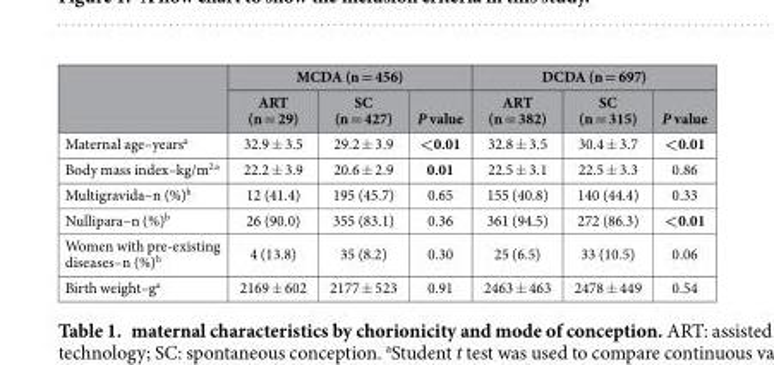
<table><thead><tr><td rowspan="2"></td><td colspan="3">MCDA (n = 456)</td><td colspan="3">DCDA (n = 697)</td></tr><tr><td>ART (n = 29)</td><td>SC (n = 427)</td><td>P value</td><td>ART (n = 382)</td><td>SC (n = 315)</td><td>P value</td></tr></thead><tbody><tr><td>Maternal age–years<sup>a</sup></td><td>32.9 ± 3.5</td><td>29.2 ± 3.9</td><td>&lt;0.01</td><td>32.8 ± 3.5</td><td>30.4 ± 3.7</td><td>&lt;0.01</td></tr><tr><td>Body mass index–kg/m<sup>2</sup> a</td><td>22.2 ± 3.9</td><td>20.6 ± 2.9</td><td>0.01</td><td>22.5 ± 3.1</td><td>22.5 ± 3.3</td><td>0.86</td></tr><tr><td>Multigravida–n (%)<sup>b</sup></td><td>12 (41.4)</td><td>195 (45.7)</td><td>0.65</td><td>155 (40.8)</td><td>140 (44.4)</td><td>0.33</td></tr><tr><td>Nullipara–n (%)<sup>b</sup></td><td>26 (90.0)</td><td>355 (83.1)</td><td>0.36</td><td>361 (94.5)</td><td>272 (86.3)</td><td>&lt;0.01</td></tr><tr><td>Women with pre-existing diseases–n (%)<sup>b</sup></td><td>4 (13.8)</td><td>35 (8.2)</td><td>0.30</td><td>25 (6.5)</td><td>33 (10.5)</td><td>0.06</td></tr><tr><td>Birth weight–g<sup>a</sup></td><td>2169 ± 602</td><td>2177 ± 523</td><td>0.91</td><td>2463 ± 463</td><td>2478 ± 449</td><td>0.54</td></tr></tbody></table>